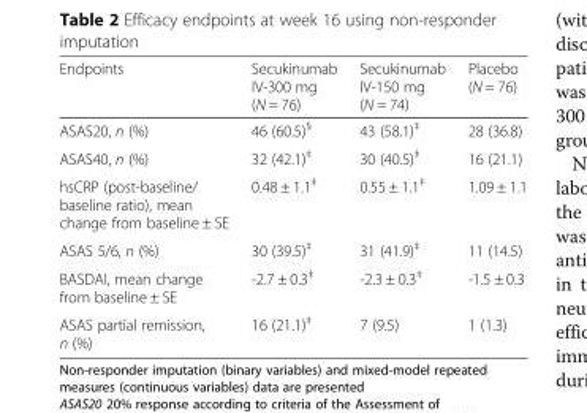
<table><thead><tr><td>Endpoints</td><td>Secukinumab IV-300 mg (N = 76)</td><td>Secukinumab IV-150 mg (N = 74)</td><td>Placebo (N = 76)</td></tr></thead><tbody><tr><td>ASAS20, n (%)</td><td>46 (60.5)<sup>§</sup></td><td>43 (58.1)<sup>‡</sup></td><td>28 (36.8)</td></tr><tr><td>ASAS40, n (%)</td><td>32 (42.1)<sup>‡</sup></td><td>30 (40.5)<sup>‡</sup></td><td>16 (21.1)</td></tr><tr><td>hsCRP (post-baseline/ baseline ratio), mean change from baseline ± SE</td><td>0.48 ± 1.1<sup>‡</sup></td><td>0.55 ± 1.1<sup>‡</sup></td><td>1.09 ± 1.1</td></tr><tr><td>ASAS 5/6, n (%)</td><td>30 (39.5)<sup>‡</sup></td><td>31 (41.9)<sup>‡</sup></td><td>11 (14.5)</td></tr><tr><td>BASDAI, mean change from baseline ± SE</td><td>-2.7 ± 0.3<sup>‡</sup></td><td>-2.3 ± 0.3<sup>‡</sup></td><td>-1.5 ± 0.3</td></tr><tr><td>ASAS partial remission, n (%)</td><td>16 (21.1)<sup>‡</sup></td><td>7 (9.5)</td><td>1 (1.3)</td></tr></tbody></table>